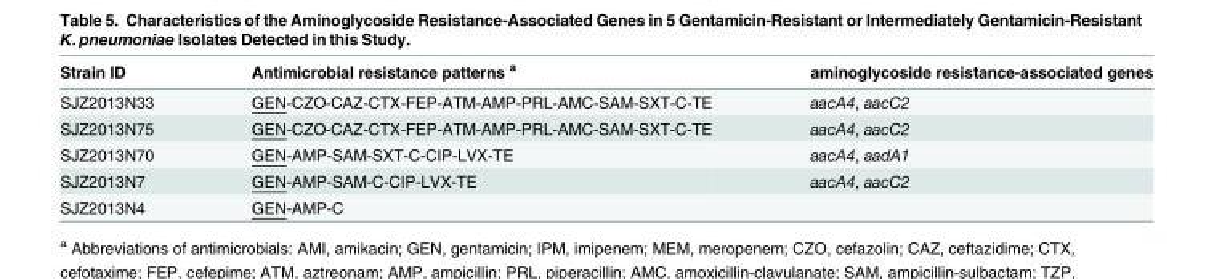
<table><thead><tr><td>Strain ID</td><td>Antimicrobial resistance patterns <sup>a</sup></td><td>aminoglycoside resistance-associated genes</td></tr></thead><tbody><tr><td>SJZ2013N33</td><td>GEN-CZO-CAZ-CTX-FEP-ATM-AMP-PRL-AMC-SAM-SXT-C-TE</td><td>aacA4, aacC2</td></tr><tr><td>SJZ2013N75</td><td>GEN-CZO-CAZ-CTX-FEP-ATM-AMP-PRL-AMC-SAM-SXT-C-TE</td><td>aacA4, aacC2</td></tr><tr><td>SJZ2013N70</td><td>GEN-AMP-SAM-SXT-C-CIP-LVX-TE</td><td>aacA4, aadA1</td></tr><tr><td>SJZ2013N7</td><td>GEN-AMP-SAM-C-CIP-LVX-TE</td><td>aacA4, aacC2</td></tr><tr><td>SJZ2013N4</td><td>GEN-AMP-C</td><td></td></tr></tbody></table>